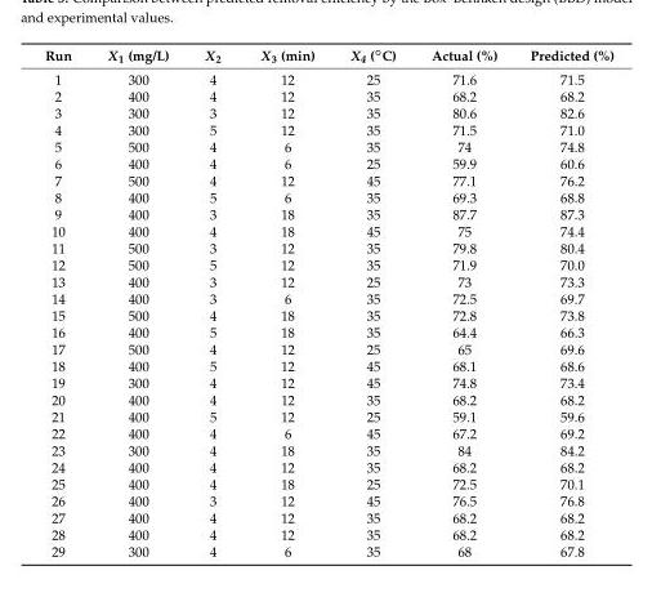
<table><thead><tr><td>Run</td><td>X<sub>1</sub> (mg/L)</td><td>X<sub>2</sub></td><td>X<sub>3</sub> (min)</td><td>X4 (◦C)</td><td>Actual (%)</td><td>Predicted (%)</td></tr></thead><tbody><tr><td>1</td><td>300</td><td>4</td><td>12</td><td>25</td><td>71.6</td><td>71.5</td></tr><tr><td>2</td><td>400</td><td>4</td><td>12</td><td>35</td><td>68.2</td><td>68.2</td></tr><tr><td>3</td><td>300</td><td>3</td><td>12</td><td>35</td><td>80.6</td><td>82.6</td></tr><tr><td>4</td><td>300</td><td>5</td><td>12</td><td>35</td><td>71.5</td><td>71.0</td></tr><tr><td>5</td><td>500</td><td>4</td><td>6</td><td>35</td><td>74</td><td>74.8</td></tr><tr><td>6</td><td>400</td><td>4</td><td>6</td><td>25</td><td>59.9</td><td>60.6</td></tr><tr><td>7</td><td>500</td><td>4</td><td>12</td><td>45</td><td>77.1</td><td>76.2</td></tr><tr><td>8</td><td>400</td><td>5</td><td>6</td><td>35</td><td>69.3</td><td>68.8</td></tr><tr><td>9</td><td>400</td><td>3</td><td>18</td><td>35</td><td>87.7</td><td>87.3</td></tr><tr><td>10</td><td>400</td><td>4</td><td>18</td><td>45</td><td>75</td><td>74.4</td></tr><tr><td>11</td><td>500</td><td>3</td><td>12</td><td>35</td><td>79.8</td><td>80.4</td></tr><tr><td>12</td><td>500</td><td>5</td><td>12</td><td>35</td><td>71.9</td><td>70.0</td></tr><tr><td>13</td><td>400</td><td>3</td><td>12</td><td>25</td><td>73</td><td>73.3</td></tr><tr><td>14</td><td>400</td><td>3</td><td>6</td><td>35</td><td>72.5</td><td>69.7</td></tr><tr><td>15</td><td>500</td><td>4</td><td>18</td><td>35</td><td>72.8</td><td>73.8</td></tr><tr><td>16</td><td>400</td><td>5</td><td>18</td><td>35</td><td>64.4</td><td>66.3</td></tr><tr><td>17</td><td>500</td><td>4</td><td>12</td><td>25</td><td>65</td><td>69.6</td></tr><tr><td>18</td><td>400</td><td>5</td><td>12</td><td>45</td><td>68.1</td><td>68.6</td></tr><tr><td>19</td><td>300</td><td>4</td><td>12</td><td>45</td><td>74.8</td><td>73.4</td></tr><tr><td>20</td><td>400</td><td>4</td><td>12</td><td>35</td><td>68.2</td><td>68.2</td></tr><tr><td>21</td><td>400</td><td>5</td><td>12</td><td>25</td><td>59.1</td><td>59.6</td></tr><tr><td>22</td><td>400</td><td>4</td><td>6</td><td>45</td><td>67.2</td><td>69.2</td></tr><tr><td>23</td><td>300</td><td>4</td><td>18</td><td>35</td><td>84</td><td>84.2</td></tr><tr><td>24</td><td>400</td><td>4</td><td>12</td><td>35</td><td>68.2</td><td>68.2</td></tr><tr><td>25</td><td>400</td><td>4</td><td>18</td><td>25</td><td>72.5</td><td>70.1</td></tr><tr><td>26</td><td>400</td><td>3</td><td>12</td><td>45</td><td>76.5</td><td>76.8</td></tr><tr><td>27</td><td>400</td><td>4</td><td>12</td><td>35</td><td>68.2</td><td>68.2</td></tr><tr><td>28</td><td>400</td><td>4</td><td>12</td><td>35</td><td>68.2</td><td>68.2</td></tr><tr><td>29</td><td>300</td><td>4</td><td>6</td><td>35</td><td>68</td><td>67.8</td></tr></tbody></table>